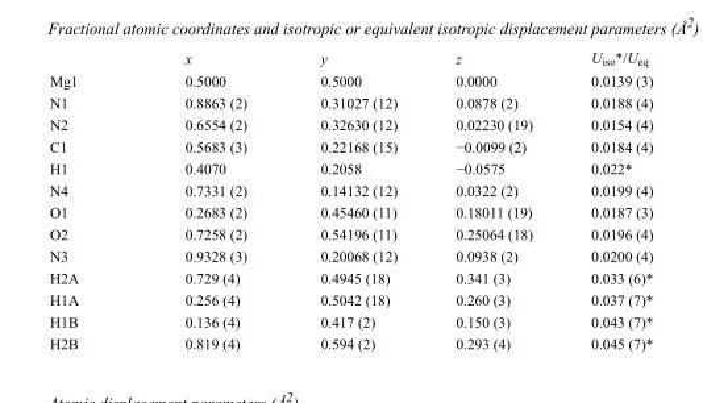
<table><thead><tr><td></td><td>x</td><td>y</td><td>z</td><td>U<sub>iso</sub>*/U<sub>eq</sub></td></tr></thead><tbody><tr><td>Mg1</td><td>0.5000</td><td>0.5000</td><td>0.0000</td><td>0.0139 (3)</td></tr><tr><td>N1</td><td>0.8863 (2)</td><td>0.31027 (12)</td><td>0.0878 (2)</td><td>0.0188 (4)</td></tr><tr><td>N2</td><td>0.6554 (2)</td><td>0.32630 (12)</td><td>0.02230 (19)</td><td>0.0154 (4)</td></tr><tr><td>C1</td><td>0.5683 (3)</td><td>0.22168 (15)</td><td>−0.0099 (2)</td><td>0.0184 (4)</td></tr><tr><td>H1</td><td>0.4070</td><td>0.2058</td><td>−0.0575</td><td>0.022*</td></tr><tr><td>N4</td><td>0.7331 (2)</td><td>0.14132 (12)</td><td>0.0322 (2)</td><td>0.0199 (4)</td></tr><tr><td>O1</td><td>0.2683 (2)</td><td>0.45460 (11)</td><td>0.18011 (19)</td><td>0.0187 (3)</td></tr><tr><td>O2</td><td>0.7258 (2)</td><td>0.54196 (11)</td><td>0.25064 (18)</td><td>0.0196 (4)</td></tr><tr><td>N3</td><td>0.9328 (3)</td><td>0.20068 (12)</td><td>0.0938 (2)</td><td>0.0200 (4)</td></tr><tr><td>H2A</td><td>0.729 (4)</td><td>0.4945 (18)</td><td>0.341 (3)</td><td>0.033 (6)*</td></tr><tr><td>H1A</td><td>0.256 (4)</td><td>0.5042 (18)</td><td>0.260 (3)</td><td>0.037 (7)*</td></tr><tr><td>H1B</td><td>0.136 (4)</td><td>0.417 (2)</td><td>0.150 (3)</td><td>0.043 (7)*</td></tr><tr><td>H2B</td><td>0.819 (4)</td><td>0.594 (2)</td><td>0.293 (4)</td><td>0.045 (7)*</td></tr></tbody></table>